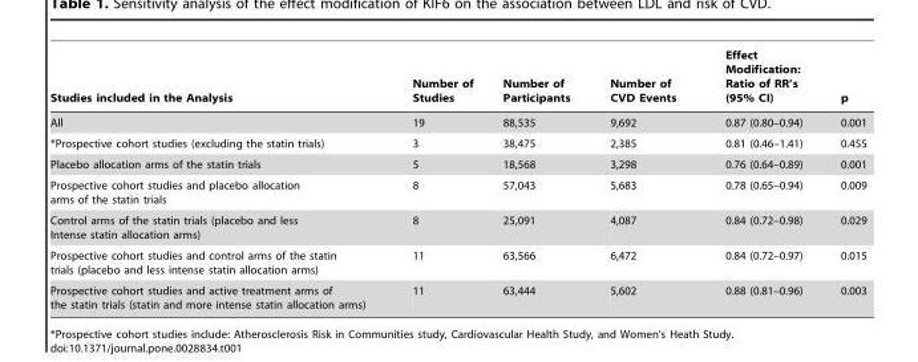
<table><thead><tr><td>Studies included in the Analysis</td><td>Number of Studies</td><td>Number of Participants</td><td>Number of CVD Events</td><td>Effect Modification: Ratio of RR’s (95% CI)</td><td>p</td></tr></thead><tbody><tr><td>All</td><td>19</td><td>88,535</td><td>9,692</td><td>0.87 (0.80–0.94)</td><td>0.001</td></tr><tr><td>*Prospective cohort studies (excluding the statin trials)</td><td>3</td><td>38,475</td><td>2,385</td><td>0.81 (0.46–1.41)</td><td>0.455</td></tr><tr><td>Placebo allocation arms of the statin trials</td><td>5</td><td>18,568</td><td>3,298</td><td>0.76 (0.64–0.89)</td><td>0.001</td></tr><tr><td>Prospective cohort studies and placebo allocation arms of the statin trials</td><td>8</td><td>57,043</td><td>5,683</td><td>0.78 (0.65–0.94)</td><td>0.009</td></tr><tr><td>Control arms of the statin trials (placebo and less Intense statin allocation arms)</td><td>8</td><td>25,091</td><td>4,087</td><td>0.84 (0.72–0.98)</td><td>0.029</td></tr><tr><td>Prospective cohort studies and control arms of the statin trials (placebo and less intense statin allocation arms)</td><td>11</td><td>63,566</td><td>6,472</td><td>0.84 (0.72–0.97)</td><td>0.015</td></tr><tr><td>Prospective cohort studies and active treatment arms of the statin trials (statin and more intense statin allocation arms)</td><td>11</td><td>63,444</td><td>5,602</td><td>0.88 (0.81–0.96)</td><td>0.003</td></tr></tbody></table>